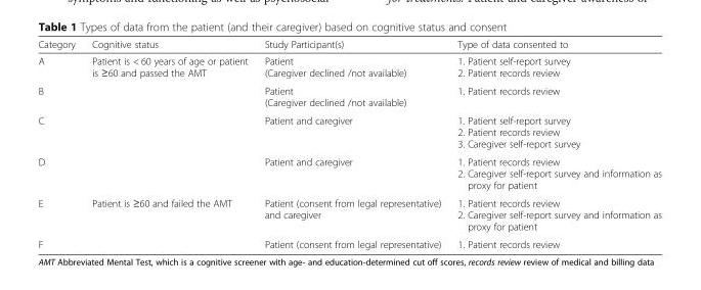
<table><thead><tr><td>Category</td><td>Cognitive status</td><td>Study Participant(s)</td><td>Type of data consented to</td></tr></thead><tbody><tr><td>A</td><td rowspan="4">Patient is &lt; 60 years of age or patient is ≥60 and passed the AMT</td><td>Patient (Caregiver declined /not available)</td><td>1. Patient self-report survey 2. Patient records review</td></tr><tr><td>B</td><td>Patient (Caregiver declined /not available)</td><td>1. Patient records review</td></tr><tr><td>C</td><td>Patient and caregiver</td><td>1. Patient self-report survey 2. Patient records review 3. Caregiver self-report survey</td></tr><tr><td>D</td><td>Patient and caregiver</td><td>1. Patient records review 2. Caregiver self-report survey and information as proxy for patient</td></tr><tr><td>E</td><td rowspan="2">Patient is ≥60 and failed the AMT</td><td>Patient (consent from legal representative) and caregiver</td><td>1. Patient records review 2. Caregiver self-report survey and information as proxy for patient</td></tr><tr><td>F</td><td>Patient (consent from legal representative)</td><td>1. Patient records review</td></tr></tbody></table>